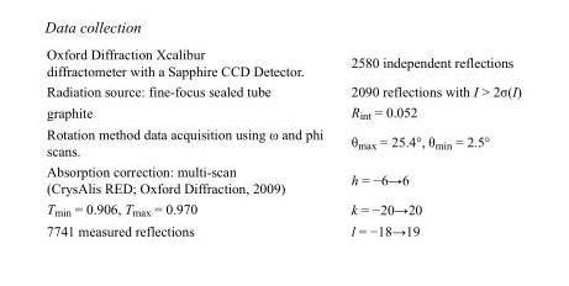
<table><tbody><tr><td>Oxford Diffraction Xcalibur diffractometer with a Sapphire CCD Detector.</td><td>2580 independent reflections</td></tr><tr><td>Radiation source: fine-focus sealed tube</td><td>2090 reflections with I &gt; 2σ(I)</td></tr><tr><td>graphite</td><td>R<sub>int</sub> = 0.052</td></tr><tr><td>Rotation method data acquisition using ω and phi scans.</td><td>θ<sub>max</sub> = 25.4°, θ<sub>min</sub> = 2.5°</td></tr><tr><td>Absorption correction: multi-scan (CrysAlis RED; Oxford Diffraction, 2009)</td><td>h = −6→6</td></tr><tr><td>T<sub>min</sub> = 0.906, T<sub>max</sub> = 0.970</td><td>k = −20→20</td></tr><tr><td>7741 measured reflections</td><td>l = −18→19</td></tr></tbody></table>